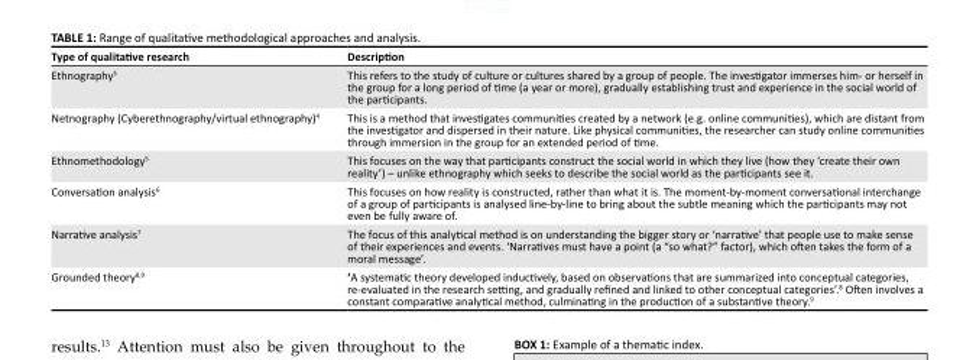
<table><thead><tr><td>Type of qualitative research</td><td>Description</td></tr></thead><tbody><tr><td>Ethnography<sup>3</sup></td><td>This refers to the study of culture or cultures shared by a group of people. The investigator immerses him- or herself in the group for a long period of time (a year or more), gradually establishing trust and experience in the social world of the participants.</td></tr><tr><td>Netnography (Cyberethnography/virtual ethnography)<sup>4</sup></td><td>This is a method that investigates communities created by a network (e.g. online communities), which are distant from the investigator and dispersed in their nature. Like physical communities, the researcher can study online communities through immersion in the group for an extended period of time.</td></tr><tr><td>Ethnomethodology<sup>5</sup></td><td>This focuses on the way that participants construct the social world in which they live (how they ‘create their own reality’) – unlike ethnography which seeks to describe the social world as the participants see it.</td></tr><tr><td>Conversation analysis<sup>6</sup></td><td>This focuses on how reality is constructed, rather than what it is. The moment-by-moment conversational interchange of a group of participants is analysed line-by-line to bring about the subtle meaning which the participants may not even be fully aware of.</td></tr><tr><td>Narrative analysis<sup>7</sup></td><td>The focus of this analytical method is on understanding the bigger story or ‘narrative’ that people use to make sense of their experiences and events. ‘Narratives must have a point (a “so what?” factor), which often takes the form of a moral message’.</td></tr><tr><td>Grounded theory<sup>8,9</sup></td><td>‘A systematic theory developed inductively, based on observations that are summarized into conceptual categories, re-evaluated in the research setting, and gradually refined and linked to other conceptual categories’.<sup>8</sup> Often involves a constant comparative analytical method, culminating in the production of a substantive theory.<sup>9</sup></td></tr></tbody></table>